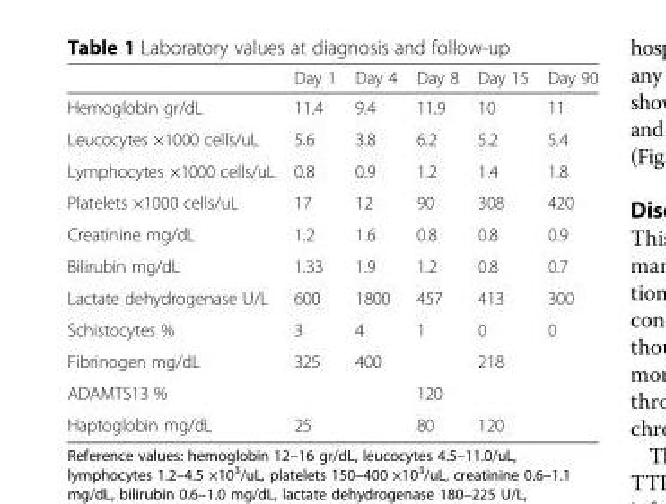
<table><thead><tr><td></td><td>Day 1</td><td>Day 4</td><td>Day 8</td><td>Day 15</td><td>Day 90</td></tr></thead><tbody><tr><td>Hemoglobin gr/dL</td><td>11.4</td><td>9.4</td><td>11.9</td><td>10</td><td>11</td></tr><tr><td>Leucocytes ×1000 cells/uL</td><td>5.6</td><td>3.8</td><td>6.2</td><td>5.2</td><td>5.4</td></tr><tr><td>Lymphocytes ×1000 cells/uL</td><td>0.8</td><td>0.9</td><td>1.2</td><td>1.4</td><td>1.8</td></tr><tr><td>Platelets ×1000 cells/uL</td><td>17</td><td>12</td><td>90</td><td>308</td><td>420</td></tr><tr><td>Creatinine mg/dL</td><td>1.2</td><td>1.6</td><td>0.8</td><td>0.8</td><td>0.9</td></tr><tr><td>Bilirubin mg/dL</td><td>1.33</td><td>1.9</td><td>1.2</td><td>0.8</td><td>0.7</td></tr><tr><td>Lactate dehydrogenase U/L</td><td>600</td><td>1800</td><td>457</td><td>413</td><td>300</td></tr><tr><td>Schistocytes %</td><td>3</td><td>4</td><td>1</td><td>0</td><td>0</td></tr><tr><td>Fibrinogen mg/dL</td><td>325</td><td>400</td><td></td><td>218</td><td></td></tr><tr><td>ADAMTS13 %</td><td></td><td></td><td>120</td><td></td><td></td></tr><tr><td>Haptoglobin mg/dL</td><td>25</td><td></td><td>80</td><td>120</td><td></td></tr></tbody></table>